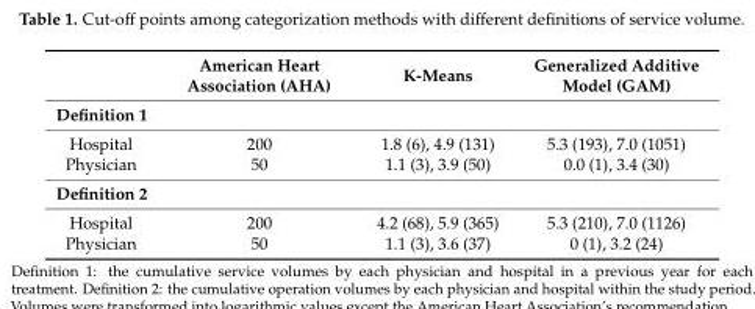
<table><thead><tr><td></td><td>American Heart Association (AHA)</td><td>K-Means</td><td>Generalized Additive Model (GAM)</td></tr></thead><tbody><tr><td colspan="4">Definition 1</td></tr><tr><td>Hospital</td><td>200</td><td>1.8 (6), 4.9 (131)</td><td>5.3 (193), 7.0 (1051)</td></tr><tr><td>Physician</td><td>50</td><td>1.1 (3), 3.9 (50)</td><td>0.0 (1), 3.4 (30)</td></tr><tr><td colspan="4">Definition 2</td></tr><tr><td>Hospital</td><td>200</td><td>4.2 (68), 5.9 (365)</td><td>5.3 (210), 7.0 (1126)</td></tr><tr><td>Physician</td><td>50</td><td>1.1 (3), 3.6 (37)</td><td>0 (1), 3.2 (24)</td></tr></tbody></table>